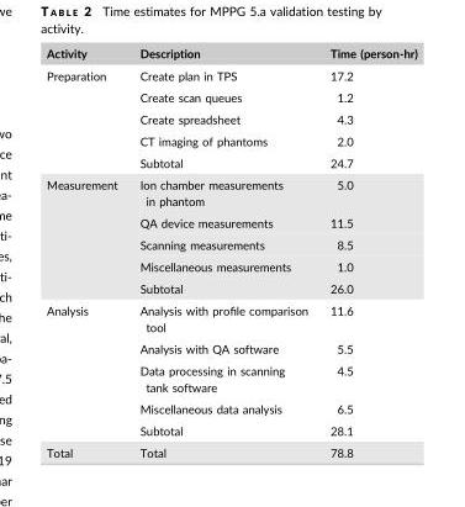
<table><thead><tr><td>Activity</td><td>Description</td><td>Time (person-hr)</td></tr></thead><tbody><tr><td rowspan="5">Preparation</td><td>Create plan in TPS</td><td>17.2</td></tr><tr><td>Create scan queues</td><td>1.2</td></tr><tr><td>Create spreadsheet</td><td>4.3</td></tr><tr><td>CT imaging of phantoms</td><td>2.0</td></tr><tr><td>Subtotal</td><td>24.7</td></tr><tr><td rowspan="5">Measurement</td><td>Ion chamber measurements in phantom</td><td>5.0</td></tr><tr><td>QA device measurements</td><td>11.5</td></tr><tr><td>Scanning measurements</td><td>8.5</td></tr><tr><td>Miscellaneous measurements</td><td>1.0</td></tr><tr><td>Subtotal</td><td>26.0</td></tr><tr><td rowspan="5">Analysis</td><td>Analysis with profile comparison tool</td><td>11.6</td></tr><tr><td>Analysis with QA software</td><td>5.5</td></tr><tr><td>Data processing in scanning tank software</td><td>4.5</td></tr><tr><td>Miscellaneous data analysis</td><td>6.5</td></tr><tr><td>Subtotal</td><td>28.1</td></tr><tr><td>Total</td><td>Total</td><td>78.8</td></tr></tbody></table>